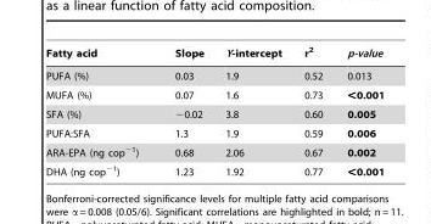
<table><thead><tr><td>Fatty acid</td><td>Slope</td><td>Y-intercept</td><td>r<sup>2</sup></td><td>p-value</td></tr></thead><tbody><tr><td>PUFA (%)</td><td>0.03</td><td>1.9</td><td>0.52</td><td>0.013</td></tr><tr><td>MUFA (%)</td><td>0.07</td><td>1.6</td><td>0.73</td><td>&lt;0.001</td></tr><tr><td>SFA (%)</td><td>−0.02</td><td>3.8</td><td>0.60</td><td>0.005</td></tr><tr><td>PUFA:SFA</td><td>1.3</td><td>1.9</td><td>0.59</td><td>0.006</td></tr><tr><td>ARA-EPA (ng cop<sup>−1</sup>)</td><td>0.68</td><td>2.06</td><td>0.67</td><td>0.002</td></tr><tr><td>DHA (ng cop<sup>−1</sup>)</td><td>1.23</td><td>1.92</td><td>0.77</td><td>&lt;0.001</td></tr></tbody></table>